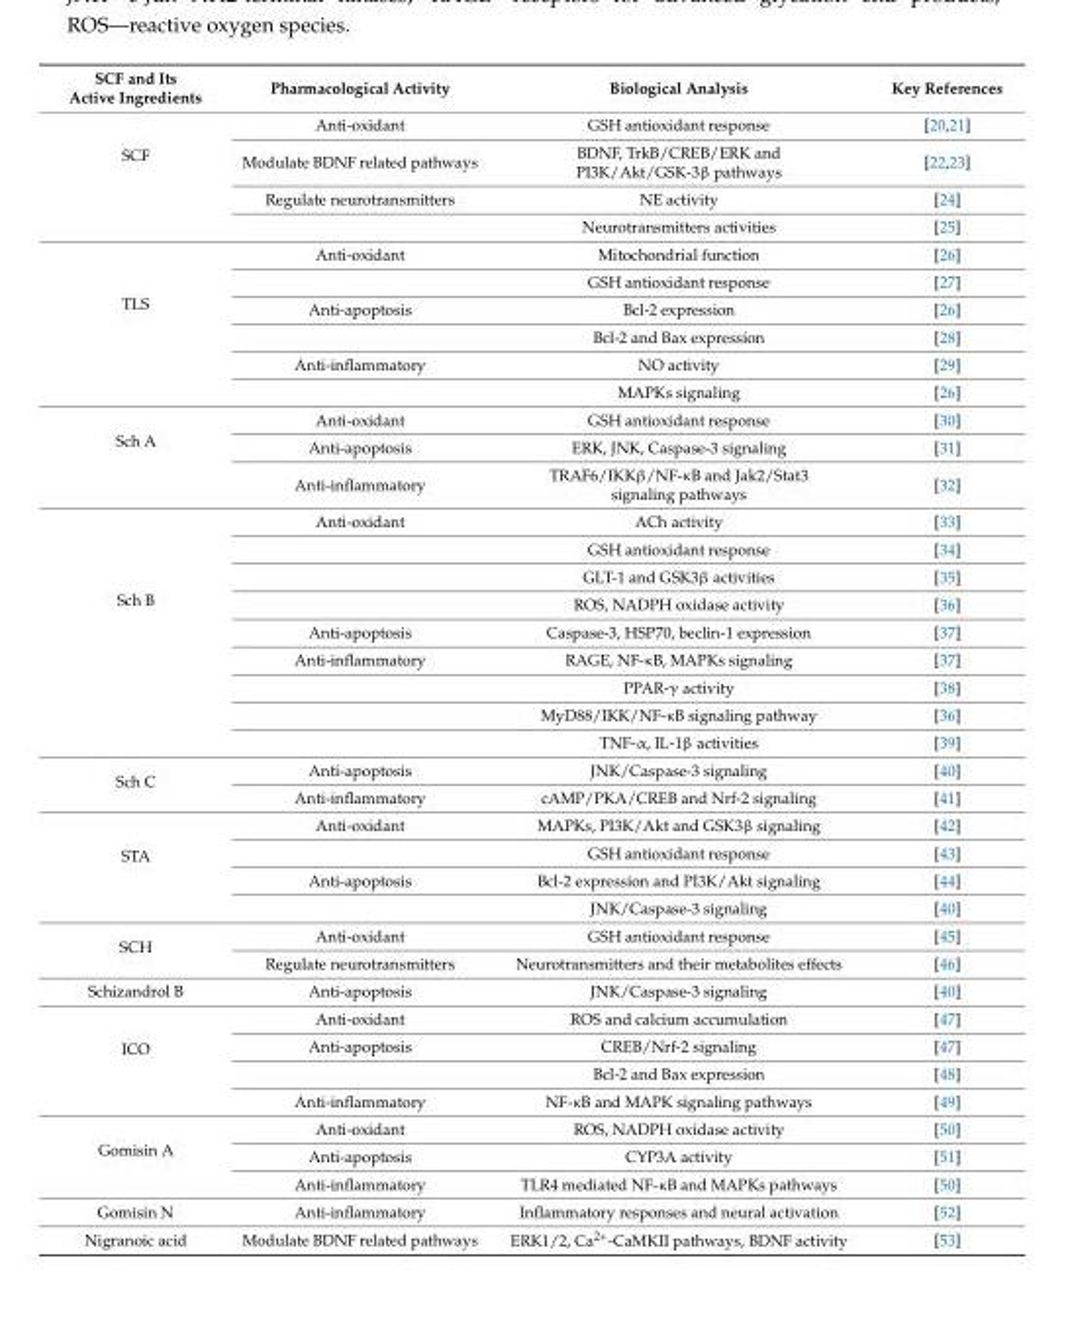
<table><thead><tr><td>SCF and Its Active Ingredients</td><td>Pharmacological Activity</td><td>Biological Analysis</td><td>Key References</td></tr></thead><tbody><tr><td rowspan="4">SCF</td><td>Anti-oxidant</td><td>GSH antioxidant response</td><td>[20,21]</td></tr><tr><td>Modulate BDNF related pathways</td><td>BDNF, TrkB/CREB/ERK and PI3K/Akt/GSK-3β pathways</td><td>[22,23]</td></tr><tr><td>Regulate neurotransmitters</td><td>NE activity</td><td>[24]</td></tr><tr><td></td><td>Neurotransmitters activities</td><td>[25]</td></tr><tr><td rowspan="6">TLS</td><td>Anti-oxidant</td><td>Mitochondrial function</td><td>[26]</td></tr><tr><td></td><td>GSH antioxidant response</td><td>[27]</td></tr><tr><td>Anti-apoptosis</td><td>Bcl-2 expression</td><td>[26]</td></tr><tr><td></td><td>Bcl-2 and Bax expression</td><td>[28]</td></tr><tr><td>Anti-inflammatory</td><td>NO activity</td><td>[29]</td></tr><tr><td></td><td>MAPKs signaling</td><td>[26]</td></tr><tr><td rowspan="3">Sch A</td><td>Anti-oxidant</td><td>GSH antioxidant response</td><td>[30]</td></tr><tr><td>Anti-apoptosis</td><td>ERK, JNK, Caspase-3 signaling</td><td>[31]</td></tr><tr><td>Anti-inflammatory</td><td>TRAF6/IKKβ/NF-κB and Jak2/Stat3 signaling pathways</td><td>[32]</td></tr><tr><td rowspan="9">Sch B</td><td>Anti-oxidant</td><td>ACh activity</td><td>[33]</td></tr><tr><td></td><td>GSH antioxidant response</td><td>[34]</td></tr><tr><td></td><td>GLT-1 and GSK3β activities</td><td>[35]</td></tr><tr><td></td><td>ROS, NADPH oxidase activity</td><td>[36]</td></tr><tr><td>Anti-apoptosis</td><td>Caspase-3, HSP70, beclin-1 expression</td><td>[37]</td></tr><tr><td>Anti-inflammatory</td><td>RAGE, NF-κB, MAPKs signaling</td><td>[37]</td></tr><tr><td></td><td>PPAR-γ activity</td><td>[38]</td></tr><tr><td></td><td>MyD88/IKK/NF-κB signaling pathway</td><td>[36]</td></tr><tr><td></td><td>TNF-α, IL-1β activities</td><td>[39]</td></tr><tr><td rowspan="2">Sch C</td><td>Anti-apoptosis</td><td>JNK/Caspase-3 signaling</td><td>[40]</td></tr><tr><td>Anti-inflammatory</td><td>cAMP/PKA/CREB and Nrf-2 signaling</td><td>[41]</td></tr><tr><td rowspan="4">STA</td><td>Anti-oxidant</td><td>MAPKs, PI3K/Akt and GSK3β signaling</td><td>[42]</td></tr><tr><td></td><td>GSH antioxidant response</td><td>[43]</td></tr><tr><td>Anti-apoptosis</td><td>Bcl-2 expression and PI3K/Akt signaling</td><td>[44]</td></tr><tr><td></td><td>JNK/Caspase-3 signaling</td><td>[40]</td></tr><tr><td rowspan="2">SCH</td><td>Anti-oxidant</td><td>GSH antioxidant response</td><td>[45]</td></tr><tr><td>Regulate neurotransmitters</td><td>Neurotransmitters and their metabolites effects</td><td>[46]</td></tr><tr><td>Schizandrol B</td><td>Anti-apoptosis</td><td>JNK/Caspase-3 signaling</td><td>[40]</td></tr><tr><td rowspan="4">ICO</td><td>Anti-oxidant</td><td>ROS and calcium accumulation</td><td>[47]</td></tr><tr><td>Anti-apoptosis</td><td>CREB/Nrf-2 signaling</td><td>[47]</td></tr><tr><td></td><td>Bcl-2 and Bax expression</td><td>[48]</td></tr><tr><td>Anti-inflammatory</td><td>NF-κB and MAPK signaling pathways</td><td>[49]</td></tr><tr><td rowspan="3">Gomisin A</td><td>Anti-oxidant</td><td>ROS, NADPH oxidase activity</td><td>[50]</td></tr><tr><td>Anti-apoptosis</td><td>CYP3A activity</td><td>[51]</td></tr><tr><td>Anti-inflammatory</td><td>TLR4 mediated NF-κB and MAPKs pathways</td><td>[50]</td></tr><tr><td>Gomisin N</td><td>Anti-inflammatory</td><td>Inflammatory responses and neural activation</td><td>[52]</td></tr><tr><td>Nigranoic acid</td><td>Modulate BDNF related pathways</td><td>ERK1/2, Ca<sup>2+</sup>-CaMKII pathways, BDNF activity</td><td>[53]</td></tr></tbody></table>